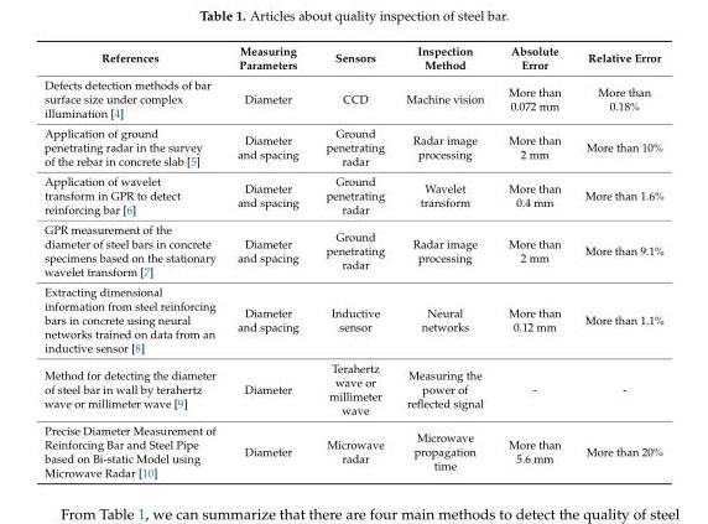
<table><thead><tr><td>References</td><td>Measuring Parameters</td><td>Sensors</td><td>Inspection Method</td><td>Absolute Error</td><td>Relative Error</td></tr></thead><tbody><tr><td>Defects detection methods of bar surface size under complex illumination [4]</td><td>Diameter</td><td>CCD</td><td>Machine vision</td><td>More than 0.072 mm</td><td>More than 0.18%</td></tr><tr><td>Application of ground penetrating radar in the survey of the rebar in concrete slab [5]</td><td>Diameter and spacing</td><td>Ground penetrating radar</td><td>Radar image processing</td><td>More than 2 mm</td><td>More than 10%</td></tr><tr><td>Application of wavelet transform in GPR to detect reinforcing bar [6]</td><td>Diameter and spacing</td><td>Ground penetrating radar</td><td>Wavelet transform</td><td>More than 0.4 mm</td><td>More than 1.6%</td></tr><tr><td>GPR measurement of the diameter of steel bars in concrete specimens based on the stationary wavelet transform [7]</td><td>Diameter and spacing</td><td>Ground penetrating radar</td><td>Radar image processing</td><td>More than 2 mm</td><td>More than 9.1%</td></tr><tr><td>Extracting dimensional information from steel reinforcing bars in concrete using neural networks trained on data from an inductive sensor [8]</td><td>Diameter and spacing</td><td>Inductive sensor</td><td>Neural networks</td><td>More than 0.12 mm</td><td>More than 1.1%</td></tr><tr><td>Method for detecting the diameter of steel bar in wall by terahertz wave or millimeter wave [9]</td><td>Diameter</td><td>Terahertz wave or millimeter wave</td><td>Measuring the power of reflected signal</td><td>-</td><td>-</td></tr><tr><td>Precise Diameter Measurement of Reinforcing Bar and Steel Pipe based on Bi-static Model using Microwave Radar [10]</td><td>Diameter</td><td>Microwave radar</td><td>Microwave propagation time</td><td>More than 5.6 mm</td><td>More than 20%</td></tr></tbody></table>